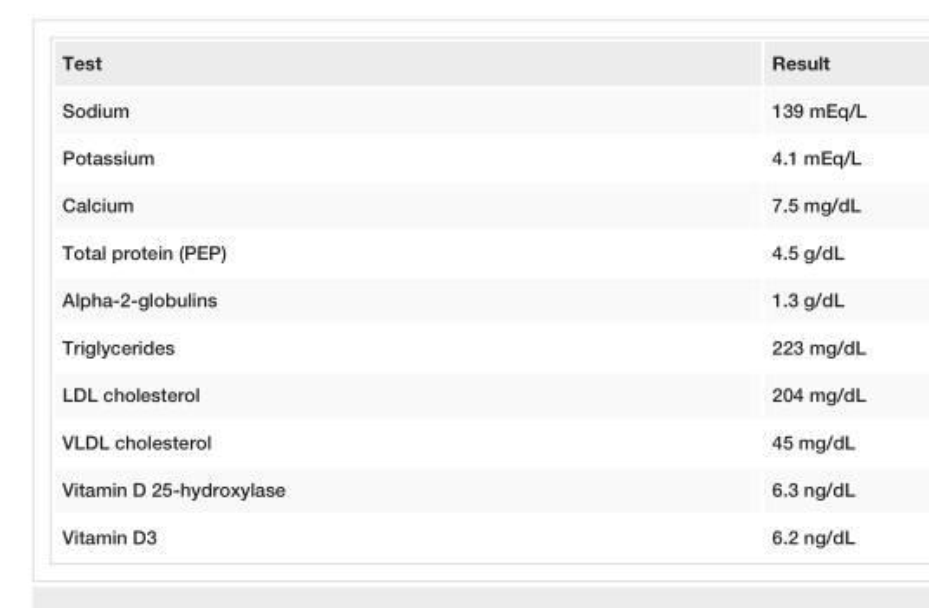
<table><tbody><tr><td>Test</td><td>Result</td></tr><tr><td>Sodium</td><td>139 mEq/L</td></tr><tr><td>Potassium</td><td>4.1 mEq/L</td></tr><tr><td>Calcium</td><td>7.5 mg/dL</td></tr><tr><td>Total protein (PEP)</td><td>4.5 g/dL</td></tr><tr><td>Alpha-2-globulins</td><td>1.3 g/dL</td></tr><tr><td>Triglycerides</td><td>223 mg/dL</td></tr><tr><td>LDL cholesterol</td><td>204 mg/dL</td></tr><tr><td>VLDL cholesterol</td><td>45 mg/dL</td></tr><tr><td>Vitamin D 25-hydroxylase</td><td>6.3 ng/dL</td></tr><tr><td>Vitamin D3</td><td>6.2 ng/dL</td></tr></tbody></table>